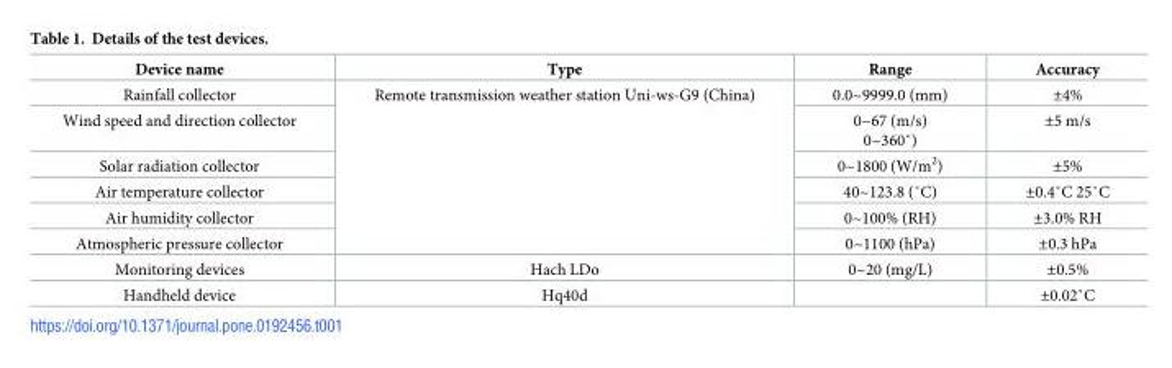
<table><thead><tr><td>Device name</td><td>Type</td><td>Range</td><td>Accuracy</td></tr></thead><tbody><tr><td>Rainfall collector</td><td rowspan="6">Remote transmission weather station Uni-ws-G9 (China)</td><td>0.0~9999.0 (mm)</td><td>±4%</td></tr><tr><td>Wind speed and direction collector</td><td>0~67 (m/s) 0~360˚)</td><td>±5 m/s</td></tr><tr><td>Solar radiation collector</td><td>0~1800 (W/m<sup>2</sup>)</td><td>±5%</td></tr><tr><td>Air temperature collector</td><td>40~123.8 (˚C)</td><td>±0.4˚C 25˚C</td></tr><tr><td>Air humidity collector</td><td>0~100% (RH)</td><td>±3.0% RH</td></tr><tr><td>Atmospheric pressure collector</td><td>0~1100 (hPa)</td><td>±0.3 hPa</td></tr><tr><td>Monitoring devices</td><td>Hach LDo</td><td>0~20 (mg/L)</td><td>±0.5%</td></tr><tr><td>Handheld device</td><td>Hq40d</td><td></td><td>±0.02˚C</td></tr></tbody></table>